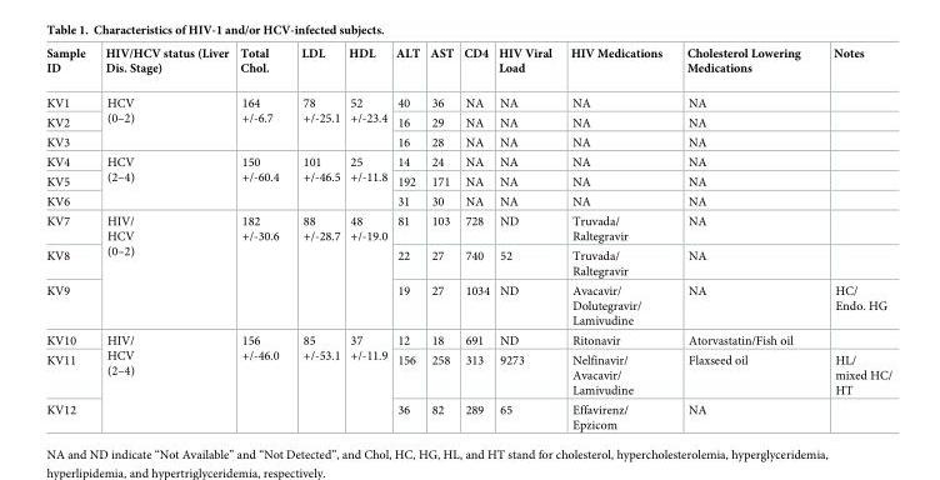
<table><thead><tr><td>Sample ID</td><td>HIV/HCV status (Liver Dis. Stage)</td><td>Total Chol.</td><td>LDL</td><td>HDL</td><td>ALT</td><td>AST</td><td>CD4</td><td>HIV Viral Load</td><td>HIV Medications</td><td>Cholesterol Lowering Medications</td><td>Notes</td></tr></thead><tbody><tr><td>KV1</td><td rowspan="3">HCV (0–2)</td><td rowspan="3">164 +/-6.7</td><td rowspan="3">78 +/-25.1</td><td rowspan="3">52 +/-23.4</td><td>40</td><td>36</td><td>NA</td><td>NA</td><td>NA</td><td>NA</td><td></td></tr><tr><td>KV2</td><td>16</td><td>29</td><td>NA</td><td>NA</td><td>NA</td><td>NA</td><td></td></tr><tr><td>KV3</td><td>16</td><td>28</td><td>NA</td><td>NA</td><td>NA</td><td>NA</td><td></td></tr><tr><td>KV4</td><td rowspan="3">HCV (2–4)</td><td rowspan="3">150 +/-60.4</td><td rowspan="3">101 +/-46.5</td><td rowspan="3">25 +/-11.8</td><td>14</td><td>24</td><td>NA</td><td>NA</td><td>NA</td><td>NA</td><td></td></tr><tr><td>KV5</td><td>192</td><td>171</td><td>NA</td><td>NA</td><td>NA</td><td>NA</td><td></td></tr><tr><td>KV6</td><td>31</td><td>30</td><td>NA</td><td>NA</td><td>NA</td><td>NA</td><td></td></tr><tr><td>KV7</td><td rowspan="3">HIV/ HCV (0–2)</td><td rowspan="3">182 +/-30.6</td><td rowspan="3">88 +/-28.7</td><td rowspan="3">48 +/-19.0</td><td>81</td><td>103</td><td>728</td><td>ND</td><td>Truvada/ Raltegravir</td><td>NA</td><td></td></tr><tr><td>KV8</td><td>22</td><td>27</td><td>740</td><td>52</td><td>Truvada/ Raltegravir</td><td>NA</td><td></td></tr><tr><td>KV9</td><td>19</td><td>27</td><td>1034</td><td>ND</td><td>Avacavir/ Dolutegravir/ Lamivudine</td><td>NA</td><td>HC/ Endo. HG</td></tr><tr><td>KV10</td><td rowspan="3">HIV/ HCV (2–4)</td><td rowspan="3">156 +/-46.0</td><td rowspan="3">85 +/-53.1</td><td rowspan="3">37 +/-11.9</td><td>12</td><td>18</td><td>691</td><td>ND</td><td>Ritonavir</td><td>Atorvastatin/Fish oil</td><td></td></tr><tr><td>KV11</td><td>156</td><td>258</td><td>313</td><td>9273</td><td>Nelfinavir/ Avacavir/ Lamivudine</td><td>Flaxseed oil</td><td>HL/ mixed HC/ HT</td></tr><tr><td>KV12</td><td>36</td><td>82</td><td>289</td><td>65</td><td>Effavirenz/ Epzicom</td><td>NA</td><td></td></tr></tbody></table>